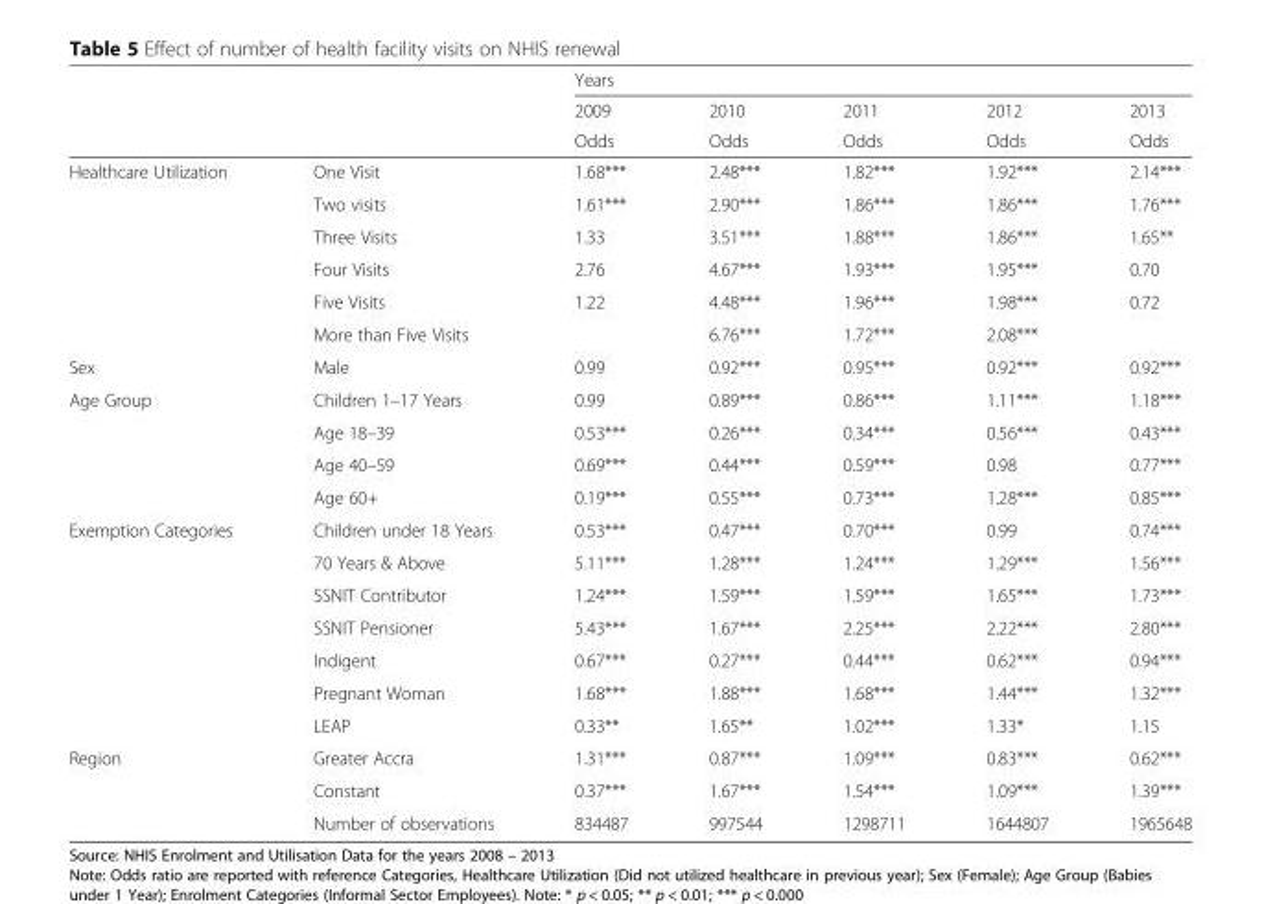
<table><thead><tr><td rowspan="3"></td><td rowspan="3"></td><td colspan="5">Years</td></tr><tr><td rowspan="2">2009 Odds</td><td rowspan="2">2010 Odds</td><td rowspan="2">2011 Odds</td><td rowspan="2">2012 Odds</td><td rowspan="2">2013 Odds</td></tr><tr></tr></thead><tbody><tr><td rowspan="6">Healthcare Utilization</td><td>One Visit</td><td>1.68***</td><td>2.48***</td><td>1.82***</td><td>1.92***</td><td>2.14***</td></tr><tr><td>Two visits</td><td>1.61***</td><td>2.90***</td><td>1.86***</td><td>1.86***</td><td>1.76***</td></tr><tr><td>Three Visits</td><td>1.33</td><td>3.51***</td><td>1.88***</td><td>1.86***</td><td>1.65**</td></tr><tr><td>Four Visits</td><td>2.76</td><td>4.67***</td><td>1.93***</td><td>1.95***</td><td>0.70</td></tr><tr><td>Five Visits</td><td>1.22</td><td>4.48***</td><td>1.96***</td><td>1.98***</td><td>0.72</td></tr><tr><td>More than Five Visits</td><td></td><td>6.76***</td><td>1.72***</td><td>2.08***</td><td></td></tr><tr><td>Sex</td><td>Male</td><td>0.99</td><td>0.92***</td><td>0.95***</td><td>0.92***</td><td>0.92***</td></tr><tr><td rowspan="4">Age Group</td><td>Children 1–17 Years</td><td>0.99</td><td>0.89***</td><td>0.86***</td><td>1.11***</td><td>1.18***</td></tr><tr><td>Age 18–39</td><td>0.53***</td><td>0.26***</td><td>0.34***</td><td>0.56***</td><td>0.43***</td></tr><tr><td>Age 40–59</td><td>0.69***</td><td>0.44***</td><td>0.59***</td><td>0.98</td><td>0.77***</td></tr><tr><td>Age 60+</td><td>0.19***</td><td>0.55***</td><td>0.73***</td><td>1.28***</td><td>0.85***</td></tr><tr><td rowspan="7">Exemption Categories</td><td>Children under 18 Years</td><td>0.53***</td><td>0.47***</td><td>0.70***</td><td>0.99</td><td>0.74***</td></tr><tr><td>70 Years &amp; Above</td><td>5.11***</td><td>1.28***</td><td>1.24***</td><td>1.29***</td><td>1.56***</td></tr><tr><td>SSNIT Contributor</td><td>1.24***</td><td>1.59***</td><td>1.59***</td><td>1.65***</td><td>1.73***</td></tr><tr><td>SSNIT Pensioner</td><td>5.43***</td><td>1.67***</td><td>2.25***</td><td>2.22***</td><td>2.80***</td></tr><tr><td>Indigent</td><td>0.67***</td><td>0.27***</td><td>0.44***</td><td>0.62***</td><td>0.94***</td></tr><tr><td>Pregnant Woman</td><td>1.68***</td><td>1.88***</td><td>1.68***</td><td>1.44***</td><td>1.32***</td></tr><tr><td>LEAP</td><td>0.33**</td><td>1.65**</td><td>1.02***</td><td>1.33*</td><td>1.15</td></tr><tr><td rowspan="3">Region</td><td>Greater Accra</td><td>1.31***</td><td>0.87***</td><td>1.09***</td><td>0.83***</td><td>0.62***</td></tr><tr><td>Constant</td><td>0.37***</td><td>1.67***</td><td>1.54***</td><td>1.09***</td><td>1.39***</td></tr><tr><td>Number of observations</td><td>834487</td><td>997544</td><td>1298711</td><td>1644807</td><td>1965648</td></tr></tbody></table>